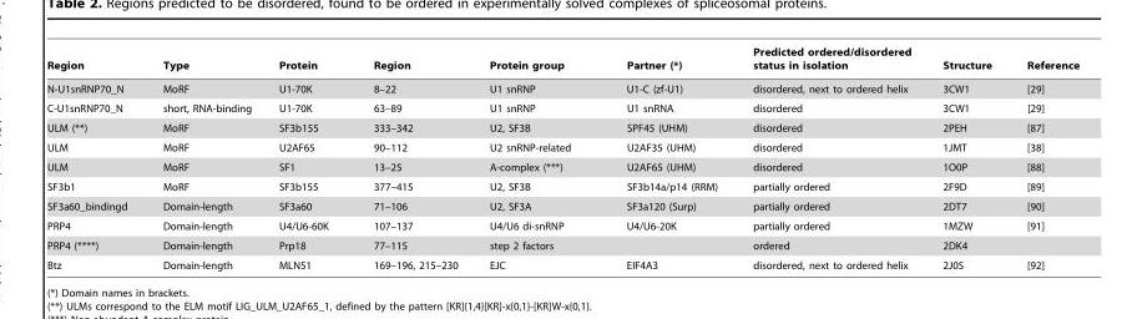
<table><thead><tr><td>Region</td><td>Type</td><td>Protein</td><td>Region</td><td>Protein group</td><td>Partner (*)</td><td>Predicted ordered/disordered status in isolation</td><td>Structure</td><td>Reference</td></tr></thead><tbody><tr><td>N-U1snRNP70_N</td><td>MoRF</td><td>U1-70K</td><td>8–22</td><td>U1 snRNP</td><td>U1-C (zf-U1)</td><td>disordered, next to ordered helix</td><td>3CW1</td><td>[29]</td></tr><tr><td>C-U1snRNP70_N</td><td>short, RNA-binding</td><td>U1-70K</td><td>63–89</td><td>U1 snRNP</td><td>U1 snRNA</td><td>disordered</td><td>3CW1</td><td>[29]</td></tr><tr><td>ULM (**)</td><td>MoRF</td><td>SF3b155</td><td>333–342</td><td>U2, SF3B</td><td>SPF45 (UHM)</td><td>disordered</td><td>2PEH</td><td>[87]</td></tr><tr><td>ULM</td><td>MoRF</td><td>U2AF65</td><td>90–112</td><td>U2 snRNP-related</td><td>U2AF35 (UHM)</td><td>disordered</td><td>1JMT</td><td>[38]</td></tr><tr><td>ULM</td><td>MoRF</td><td>SF1</td><td>13–25</td><td>A-complex (***)</td><td>U2AF65 (UHM)</td><td>disordered</td><td>1O0P</td><td>[88]</td></tr><tr><td>SF3b1</td><td>MoRF</td><td>SF3b155</td><td>377–415</td><td>U2, SF3B</td><td>SF3b14a/p14 (RRM)</td><td>partially ordered</td><td>2F9D</td><td>[89]</td></tr><tr><td>SF3a60_bindingd</td><td>Domain-length</td><td>SF3a60</td><td>71–106</td><td>U2, SF3A</td><td>SF3a120 (Surp)</td><td>partially ordered</td><td>2DT7</td><td>[90]</td></tr><tr><td>PRP4</td><td>Domain-length</td><td>U4/U6-60K</td><td>107–137</td><td>U4/U6 di-snRNP</td><td>U4/U6-20K</td><td>partially ordered</td><td>1MZW</td><td>[91]</td></tr><tr><td>PRP4 (****)</td><td>Domain-length</td><td>Prp18</td><td>77–115</td><td>step 2 factors</td><td></td><td>ordered</td><td>2DK4</td><td></td></tr><tr><td>Btz</td><td>Domain-length</td><td>MLN51</td><td>169–196, 215–230</td><td>EJC</td><td>EIF4A3</td><td>disordered, next to ordered helix</td><td>2J0S</td><td>[92]</td></tr></tbody></table>